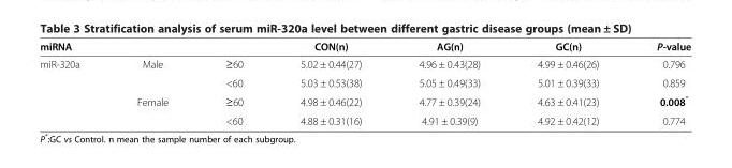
<table><thead><tr><td>miRNA</td><td></td><td></td><td>CON(n)</td><td>AG(n)</td><td>GC(n)</td><td>P-value</td></tr></thead><tbody><tr><td rowspan="4">miR-320a</td><td>Male</td><td>≥60</td><td>5.02 ± 0.44(27)</td><td>4.96 ± 0.43(28)</td><td>4.99 ± 0.46(26)</td><td>0.796</td></tr><tr><td></td><td>&lt;60</td><td>5.03 ± 0.53(38)</td><td>5.05 ± 0.49(33)</td><td>5.01 ± 0.39(33)</td><td>0.859</td></tr><tr><td>Female</td><td>≥60</td><td>4.98 ± 0.46(22)</td><td>4.77 ± 0.39(24)</td><td>4.63 ± 0.41(23)</td><td>0.008*</td></tr><tr><td></td><td>&lt;60</td><td>4.88 ± 0.31(16)</td><td>4.91 ± 0.39(9)</td><td>4.92 ± 0.42(12)</td><td>0.774</td></tr></tbody></table>